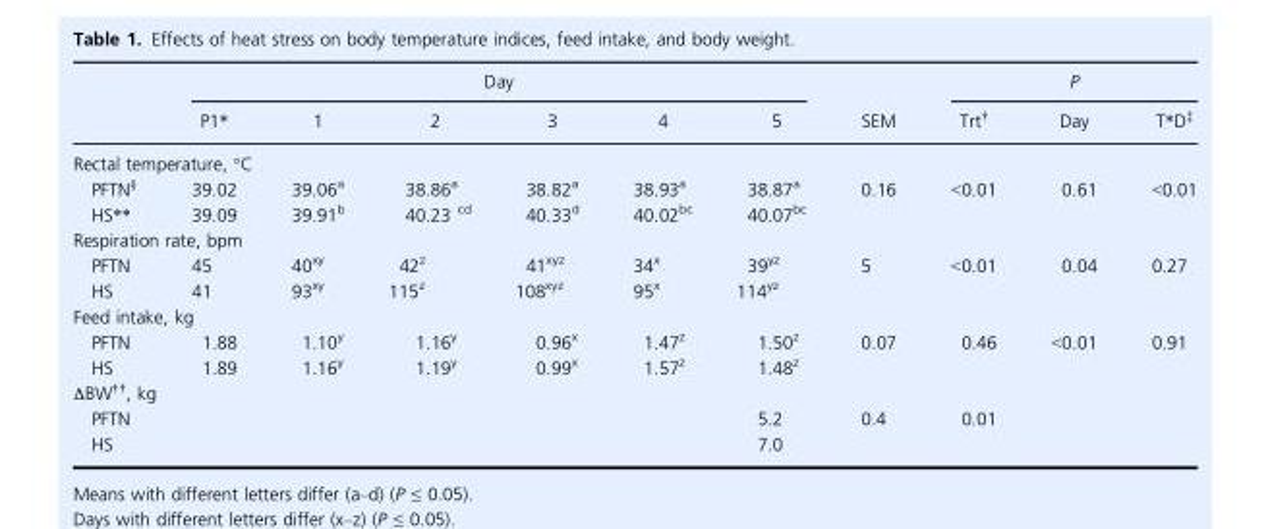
<table><thead><tr><td rowspan="2"></td><td colspan="6">Day</td><td rowspan="2">SEM</td><td colspan="3">P</td></tr><tr><td>P1*</td><td>1</td><td>2</td><td>3</td><td>4</td><td>5</td><td>Trt†</td><td>Day</td><td>T*D‡</td></tr></thead><tbody><tr><td colspan="11">Rectal temperature, °C</td></tr><tr><td>PFTN§</td><td>39.02</td><td>39.06<sup>a</sup></td><td>38.86<sup>a</sup></td><td>38.82<sup>a</sup></td><td>38.93<sup>a</sup></td><td>38.87<sup>a</sup></td><td rowspan="2">0.16</td><td rowspan="2">&lt;0.01</td><td rowspan="2">0.61</td><td rowspan="2">&lt;0.01</td></tr><tr><td>HS**</td><td>39.09</td><td>39.91<sup>b</sup></td><td>40.23 <sup>cd</sup></td><td>40.33<sup>d</sup></td><td>40.02<sup>bc</sup></td><td>40.07<sup>bc</sup></td></tr><tr><td colspan="11">Respiration rate, bpm</td></tr><tr><td>PFTN</td><td>45</td><td>40<sup>xy</sup></td><td>42<sup>z</sup></td><td>41<sup>xyz</sup></td><td>34<sup>x</sup></td><td>39<sup>yz</sup></td><td rowspan="2">5</td><td rowspan="2">&lt;0.01</td><td rowspan="2">0.04</td><td rowspan="2">0.27</td></tr><tr><td>HS</td><td>41</td><td>93<sup>xy</sup></td><td>115<sup>z</sup></td><td>108<sup>xyz</sup></td><td>95<sup>x</sup></td><td>114<sup>yz</sup></td></tr><tr><td colspan="11">Feed intake, kg</td></tr><tr><td>PFTN</td><td>1.88</td><td>1.10<sup>y</sup></td><td>1.16<sup>y</sup></td><td>0.96<sup>x</sup></td><td>1.47<sup>z</sup></td><td>1.50<sup>z</sup></td><td rowspan="2">0.07</td><td rowspan="2">0.46</td><td rowspan="2">&lt;0.01</td><td rowspan="2">0.91</td></tr><tr><td>HS</td><td>1.89</td><td>1.16<sup>y</sup></td><td>1.19<sup>y</sup></td><td>0.99<sup>x</sup></td><td>1.57<sup>z</sup></td><td>1.48<sup>z</sup></td></tr><tr><td colspan="11">ΔBW††, kg</td></tr><tr><td>PFTN</td><td></td><td></td><td></td><td></td><td></td><td>5.2</td><td rowspan="2">0.4</td><td rowspan="2">0.01</td><td></td><td></td></tr><tr><td>HS</td><td></td><td></td><td></td><td></td><td></td><td>7.0</td><td></td><td></td></tr></tbody></table>